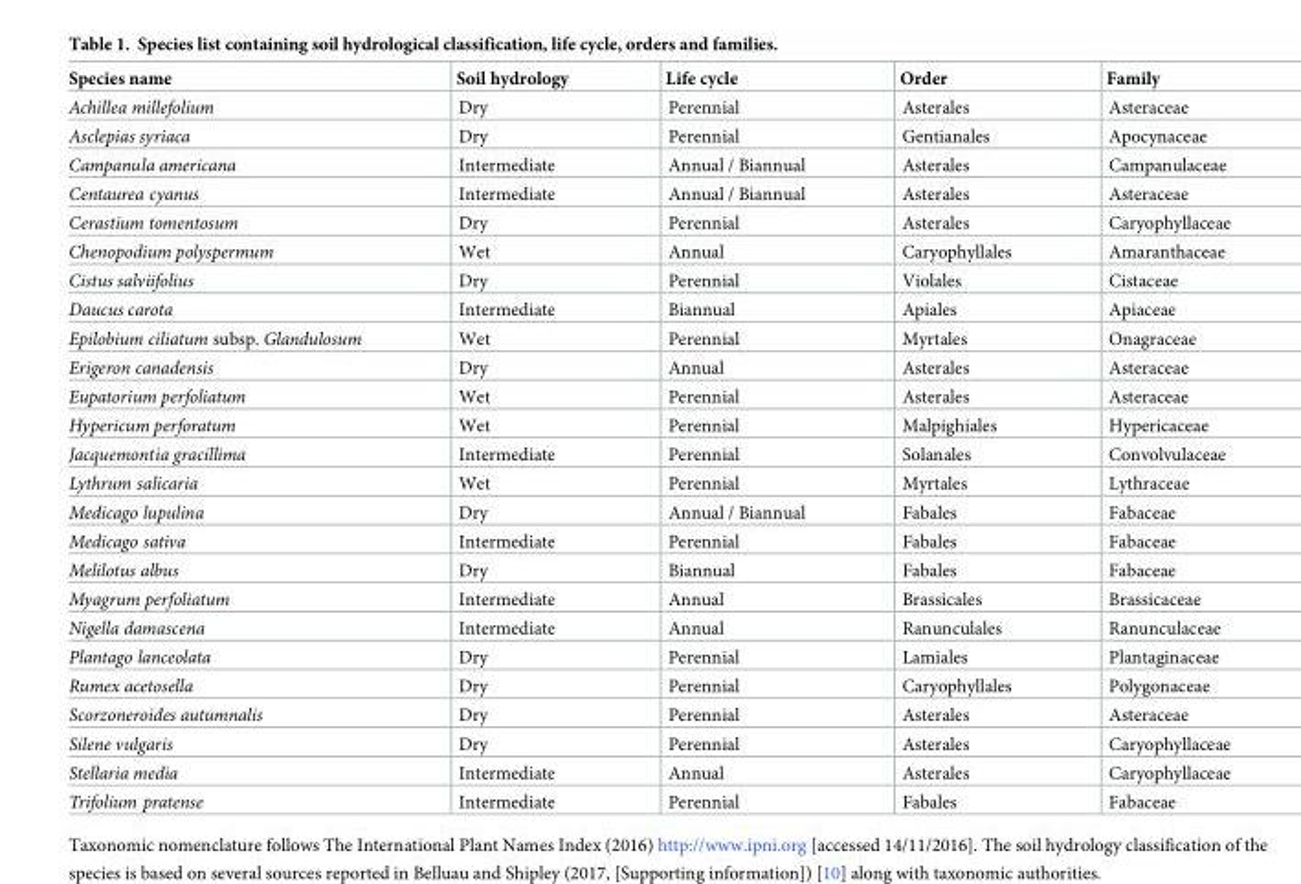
<table><thead><tr><td>Species name</td><td>Soil hydrology</td><td>Life cycle</td><td>Order</td><td>Family</td></tr></thead><tbody><tr><td>Achillea millefolium</td><td>Dry</td><td>Perennial</td><td>Asterales</td><td>Asteraceae</td></tr><tr><td>Asclepias syriaca</td><td>Dry</td><td>Perennial</td><td>Gentianales</td><td>Apocynaceae</td></tr><tr><td>Campanula americana</td><td>Intermediate</td><td>Annual / Biannual</td><td>Asterales</td><td>Campanulaceae</td></tr><tr><td>Centaurea cyanus</td><td>Intermediate</td><td>Annual / Biannual</td><td>Asterales</td><td>Asteraceae</td></tr><tr><td>Cerastium tomentosum</td><td>Dry</td><td>Perennial</td><td>Asterales</td><td>Caryophyllaceae</td></tr><tr><td>Chenopodium polyspermum</td><td>Wet</td><td>Annual</td><td>Caryophyllales</td><td>Amaranthaceae</td></tr><tr><td>Cistus salviifolius</td><td>Dry</td><td>Perennial</td><td>Violales</td><td>Cistaceae</td></tr><tr><td>Daucus carota</td><td>Intermediate</td><td>Biannual</td><td>Apiales</td><td>Apiaceae</td></tr><tr><td>Epilobium ciliatum subsp. Glandulosum</td><td>Wet</td><td>Perennial</td><td>Myrtales</td><td>Onagraceae</td></tr><tr><td>Erigeron canadensis</td><td>Dry</td><td>Annual</td><td>Asterales</td><td>Asteraceae</td></tr><tr><td>Eupatorium perfoliatum</td><td>Wet</td><td>Perennial</td><td>Asterales</td><td>Asteraceae</td></tr><tr><td>Hypericum perforatum</td><td>Wet</td><td>Perennial</td><td>Malpighiales</td><td>Hypericaceae</td></tr><tr><td>Jacquemontia gracillima</td><td>Intermediate</td><td>Perennial</td><td>Solanales</td><td>Convolvulaceae</td></tr><tr><td>Lythrum salicaria</td><td>Wet</td><td>Perennial</td><td>Myrtales</td><td>Lythraceae</td></tr><tr><td>Medicago lupulina</td><td>Dry</td><td>Annual / Biannual</td><td>Fabales</td><td>Fabaceae</td></tr><tr><td>Medicago sativa</td><td>Intermediate</td><td>Perennial</td><td>Fabales</td><td>Fabaceae</td></tr><tr><td>Melilotus albus</td><td>Dry</td><td>Biannual</td><td>Fabales</td><td>Fabaceae</td></tr><tr><td>Myagrum perfoliatum</td><td>Intermediate</td><td>Annual</td><td>Brassicales</td><td>Brassicaceae</td></tr><tr><td>Nigella damascena</td><td>Intermediate</td><td>Annual</td><td>Ranunculales</td><td>Ranunculaceae</td></tr><tr><td>Plantago lanceolata</td><td>Dry</td><td>Perennial</td><td>Lamiales</td><td>Plantaginaceae</td></tr><tr><td>Rumex acetosella</td><td>Dry</td><td>Perennial</td><td>Caryophyllales</td><td>Polygonaceae</td></tr><tr><td>Scorzoneroides autumnalis</td><td>Dry</td><td>Perennial</td><td>Asterales</td><td>Asteraceae</td></tr><tr><td>Silene vulgaris</td><td>Dry</td><td>Perennial</td><td>Asterales</td><td>Caryophyllaceae</td></tr><tr><td>Stellaria media</td><td>Intermediate</td><td>Annual</td><td>Asterales</td><td>Caryophyllaceae</td></tr><tr><td>Trifolium pratense</td><td>Intermediate</td><td>Perennial</td><td>Fabales</td><td>Fabaceae</td></tr></tbody></table>